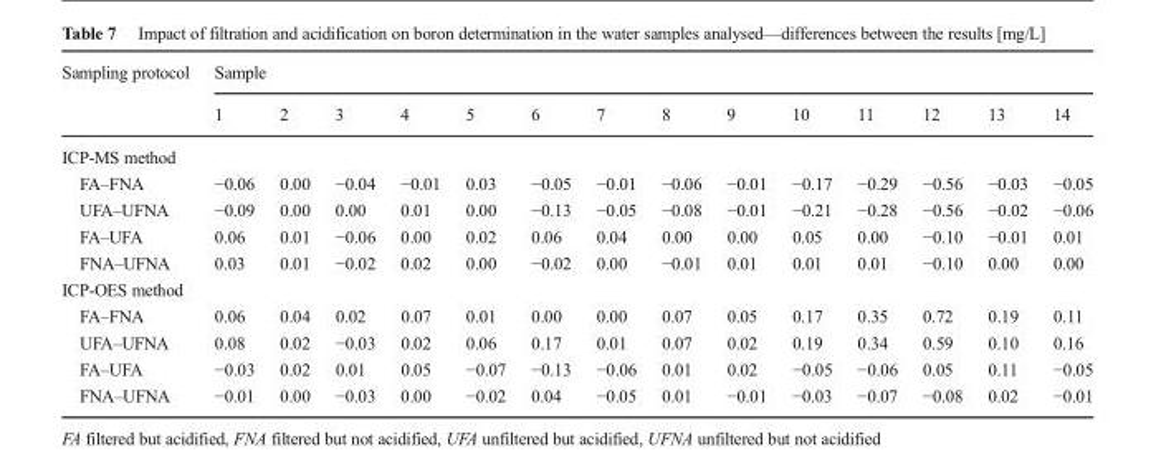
<table><thead><tr><td rowspan="2">Sampling protocol</td><td colspan="14">Sample</td></tr><tr><td>1</td><td>2</td><td>3</td><td>4</td><td>5</td><td>6</td><td>7</td><td>8</td><td>9</td><td>10</td><td>11</td><td>12</td><td>13</td><td>14</td></tr></thead><tbody><tr><td colspan="15">ICP-MS method</td></tr><tr><td>FA–FNA</td><td>−0.06</td><td>0.00</td><td>−0.04</td><td>−0.01</td><td>0.03</td><td>−0.05</td><td>−0.01</td><td>−0.06</td><td>−0.01</td><td>−0.17</td><td>−0.29</td><td>−0.56</td><td>−0.03</td><td>−0.05</td></tr><tr><td>UFA–UFNA</td><td>−0.09</td><td>0.00</td><td>0.00</td><td>0.01</td><td>0.00</td><td>−0.13</td><td>−0.05</td><td>−0.08</td><td>−0.01</td><td>−0.21</td><td>−0.28</td><td>−0.56</td><td>−0.02</td><td>−0.06</td></tr><tr><td>FA–UFA</td><td>0.06</td><td>0.01</td><td>−0.06</td><td>0.00</td><td>0.02</td><td>0.06</td><td>0.04</td><td>0.00</td><td>0.00</td><td>0.05</td><td>0.00</td><td>−0.10</td><td>−0.01</td><td>0.01</td></tr><tr><td>FNA–UFNA</td><td>0.03</td><td>0.01</td><td>−0.02</td><td>0.02</td><td>0.00</td><td>−0.02</td><td>0.00</td><td>−0.01</td><td>0.01</td><td>0.01</td><td>0.01</td><td>−0.10</td><td>0.00</td><td>0.00</td></tr><tr><td colspan="15">ICP-OES method</td></tr><tr><td>FA–FNA</td><td>0.06</td><td>0.04</td><td>0.02</td><td>0.07</td><td>0.01</td><td>0.00</td><td>0.00</td><td>0.07</td><td>0.05</td><td>0.17</td><td>0.35</td><td>0.72</td><td>0.19</td><td>0.11</td></tr><tr><td>UFA–UFNA</td><td>0.08</td><td>0.02</td><td>−0.03</td><td>0.02</td><td>0.06</td><td>0.17</td><td>0.01</td><td>0.07</td><td>0.02</td><td>0.19</td><td>0.34</td><td>0.59</td><td>0.10</td><td>0.16</td></tr><tr><td>FA–UFA</td><td>−0.03</td><td>0.02</td><td>0.01</td><td>0.05</td><td>−0.07</td><td>−0.13</td><td>−0.06</td><td>0.01</td><td>0.02</td><td>−0.05</td><td>−0.06</td><td>0.05</td><td>0.11</td><td>−0.05</td></tr><tr><td>FNA–UFNA</td><td>−0.01</td><td>0.00</td><td>−0.03</td><td>0.00</td><td>−0.02</td><td>0.04</td><td>−0.05</td><td>0.01</td><td>−0.01</td><td>−0.03</td><td>−0.07</td><td>−0.08</td><td>0.02</td><td>−0.01</td></tr></tbody></table>